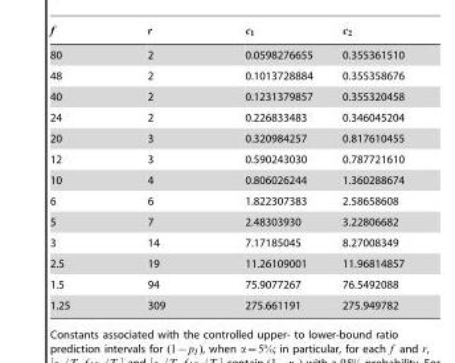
<table><tbody><tr><td>80</td><td>2</td><td>0.0598276655</td><td>0.355361510</td></tr><tr><td>48</td><td>2</td><td>0.1013728884</td><td>0.355358676</td></tr><tr><td>40</td><td>2</td><td>0.1231379857</td><td>0.355320458</td></tr><tr><td>24</td><td>2</td><td>0.226833483</td><td>0.346045204</td></tr><tr><td>20</td><td>3</td><td>0.320984257</td><td>0.817610455</td></tr><tr><td>12</td><td>3</td><td>0.590243030</td><td>0.787721610</td></tr><tr><td>10</td><td>4</td><td>0.806026244</td><td>1.360288674</td></tr><tr><td>6</td><td>6</td><td>1.822307383</td><td>2.58658608</td></tr><tr><td>5</td><td>7</td><td>2.48303930</td><td>3.22806682</td></tr><tr><td>3</td><td>14</td><td>7.17185045</td><td>8.27008349</td></tr><tr><td>2.5</td><td>19</td><td>11.26109001</td><td>11.96814857</td></tr><tr><td>1.5</td><td>94</td><td>75.9077267</td><td>76.5492088</td></tr><tr><td>1.25</td><td>309</td><td>275.661191</td><td>275.949782</td></tr></tbody></table>